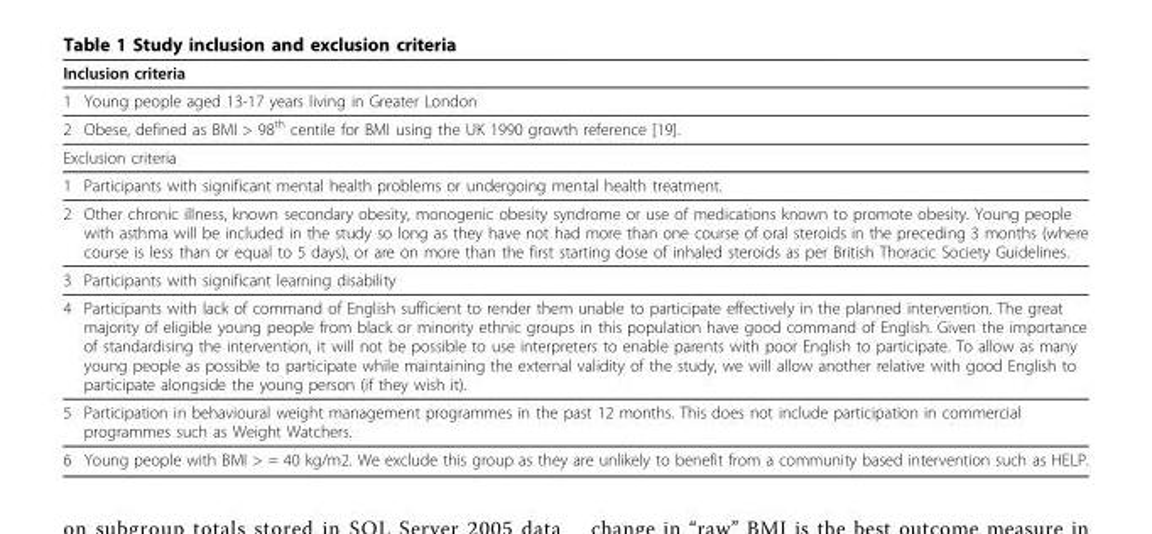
<table><thead><tr><td colspan="2">Inclusion criteria</td></tr><tr><td>1</td><td>Young people aged 13-17 years living in Greater London</td></tr></thead><tbody><tr><td>2</td><td>Obese, defined as BMI &gt; 98<sup>th</sup> centile for BMI using the UK 1990 growth reference [19].</td></tr><tr><td colspan="2">Exclusion criteria</td></tr><tr><td>1</td><td>Participants with significant mental health problems or undergoing mental health treatment.</td></tr><tr><td>2</td><td>Other chronic illness, known secondary obesity, monogenic obesity syndrome or use of medications known to promote obesity. Young people with asthma will be included in the study so long as they have not had more than one course of oral steroids in the preceding 3 months (where course is less than or equal to 5 days), or are on more than the first starting dose of inhaled steroids as per British Thoracic Society Guidelines.</td></tr><tr><td>3</td><td>Participants with significant learning disability</td></tr><tr><td>4</td><td>Participants with lack of command of English sufficient to render them unable to participate effectively in the planned intervention. The great majority of eligible young people from black or minority ethnic groups in this population have good command of English. Given the importance of standardising the intervention, it will not be possible to use interpreters to enable parents with poor English to participate. To allow as many young people as possible to participate while maintaining the external validity of the study, we will allow another relative with good English to participate alongside the young person (if they wish it).</td></tr><tr><td>5</td><td>Participation in behavioural weight management programmes in the past 12 months. This does not include participation in commercial programmes such as Weight Watchers.</td></tr><tr><td>6</td><td>Young people with BMI &gt; = 40 kg/m2. We exclude this group as they are unlikely to benefit from a community based intervention such as HELP.</td></tr></tbody></table>